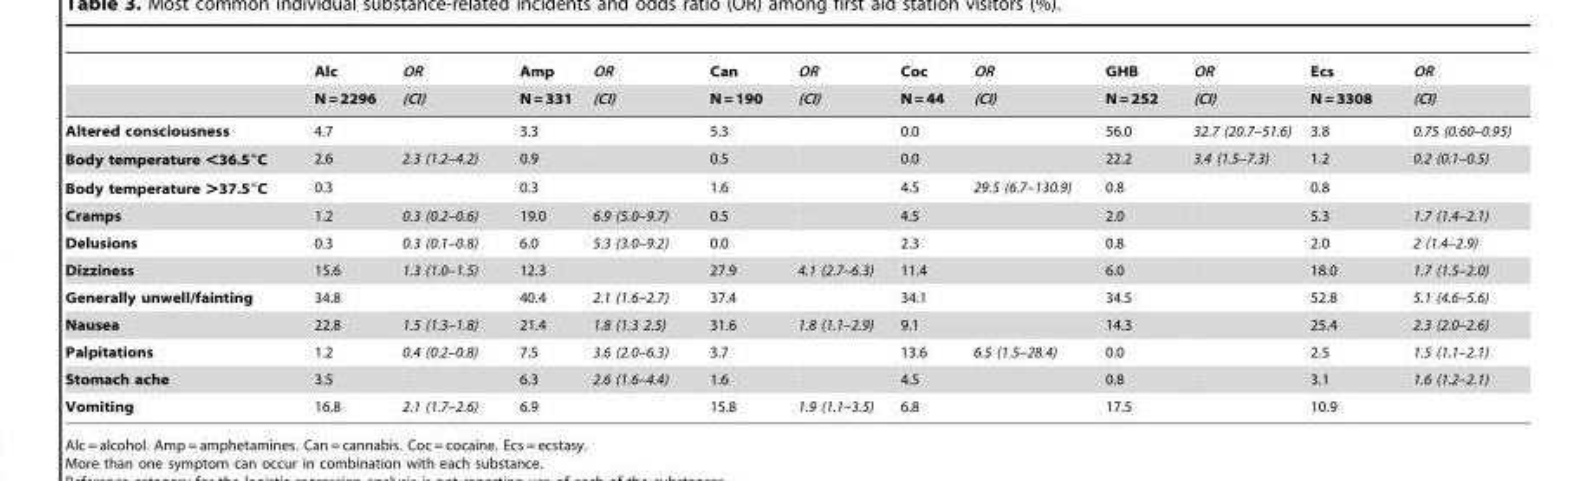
<table><thead><tr><td rowspan="2"></td><td rowspan="2">Alc N = 2296</td><td rowspan="2">OR (CI)</td><td rowspan="2">Amp N = 331</td><td rowspan="2">OR (CI)</td><td rowspan="2">Can N = 190</td><td rowspan="2">OR (CI)</td><td rowspan="2">Coc N = 44</td><td rowspan="2">OR (CI)</td><td rowspan="2">GHB N = 252</td><td rowspan="2">OR (CI)</td><td rowspan="2">Ecs N = 3308</td><td rowspan="2">OR (CI)</td></tr><tr></tr></thead><tbody><tr><td>Altered consciousness</td><td>4.7</td><td></td><td>3.3</td><td></td><td>5.3</td><td></td><td>0.0</td><td></td><td>56.0</td><td>32.7 (20.7–51.6)</td><td>3.8</td><td>0.75 (0.60–0.95)</td></tr><tr><td>Body temperature &lt;36.5°C</td><td>2.6</td><td>2.3 (1.2–4.2)</td><td>0.9</td><td></td><td>0.5</td><td></td><td>0.0</td><td></td><td>22.2</td><td>3.4 (1.5–7.3)</td><td>1.2</td><td>0.2 (0.1–0.5)</td></tr><tr><td>Body temperature &gt;37.5°C</td><td>0.3</td><td></td><td>0.3</td><td></td><td>1.6</td><td></td><td>4.5</td><td>29.5 (6.7–130.9)</td><td>0.8</td><td></td><td>0.8</td><td></td></tr><tr><td>Cramps</td><td>1.2</td><td>0.3 (0.2–0.6)</td><td>19.0</td><td>6.9 (5.0–9.7)</td><td>0.5</td><td></td><td>4.5</td><td></td><td>2.0</td><td></td><td>5.3</td><td>1.7 (1.4–2.1)</td></tr><tr><td>Delusions</td><td>0.3</td><td>0.3 (0.1–0.8)</td><td>6.0</td><td>5.3 (3.0–9.2)</td><td>0.0</td><td></td><td>2.3</td><td></td><td>0.8</td><td></td><td>2.0</td><td>2 (1.4–2.9)</td></tr><tr><td>Dizziness</td><td>15.6</td><td>1.3 (1.0–1.5)</td><td>12.3</td><td></td><td>27.9</td><td>4.1 (2.7–6.3)</td><td>11.4</td><td></td><td>6.0</td><td></td><td>18.0</td><td>1.7 (1.5–2.0)</td></tr><tr><td>Generally unwell/fainting</td><td>34.8</td><td></td><td>40.4</td><td>2.1 (1.6–2.7)</td><td>37.4</td><td></td><td>34.1</td><td></td><td>34.5</td><td></td><td>52.8</td><td>5.1 (4.6–5.6)</td></tr><tr><td>Nausea</td><td>22.8</td><td>1.5 (1.3–1.8)</td><td>21.4</td><td>1.8 (1.3 2.5)</td><td>31.6</td><td>1.8 (1.1–2.9)</td><td>9.1</td><td></td><td>14.3</td><td></td><td>25.4</td><td>2.3 (2.0–2.6)</td></tr><tr><td>Palpitations</td><td>1.2</td><td>0.4 (0.2–0.8)</td><td>7.5</td><td>3.6 (2.0–6.3)</td><td>3.7</td><td></td><td>13.6</td><td>6.5 (1.5–28.4)</td><td>0.0</td><td></td><td>2.5</td><td>1.5 (1.1–2.1)</td></tr><tr><td>Stomach ache</td><td>3.5</td><td></td><td>6.3</td><td>2.6 (1.6–4.4)</td><td>1.6</td><td></td><td>4.5</td><td></td><td>0.8</td><td></td><td>3.1</td><td>1.6 (1.2–2.1)</td></tr><tr><td>Vomiting</td><td>16.8</td><td>2.1 (1.7–2.6)</td><td>6.9</td><td></td><td>15.8</td><td>1.9 (1.1–3.5)</td><td>6.8</td><td></td><td>17.5</td><td></td><td>10.9</td><td></td></tr></tbody></table>